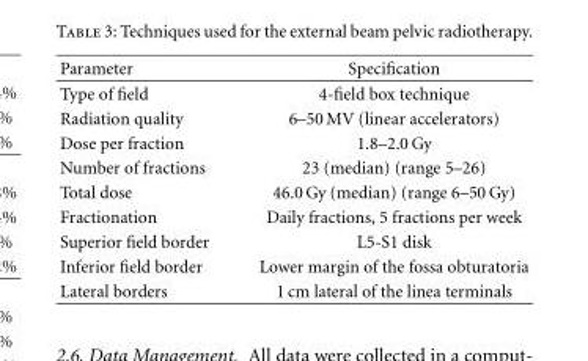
<table><thead><tr><td>Parameter</td><td>Specification</td></tr></thead><tbody><tr><td>Type of field</td><td>4-field box technique</td></tr><tr><td>Radiation quality</td><td>6–50 MV (linear accelerators)</td></tr><tr><td>Dose per fraction</td><td>1.8–2.0 Gy</td></tr><tr><td>Number of fractions</td><td>23 (median) (range 5–26)</td></tr><tr><td>Total dose</td><td>46.0 Gy (median) (range 6–50 Gy)</td></tr><tr><td>Fractionation</td><td>Daily fractions, 5 fractions per week</td></tr><tr><td>Superior field border</td><td>L5-S1 disk</td></tr><tr><td>Inferior field border</td><td>Lower margin of the fossa obturatoria</td></tr><tr><td>Lateral borders</td><td>1 cm lateral of the linea terminals</td></tr></tbody></table>